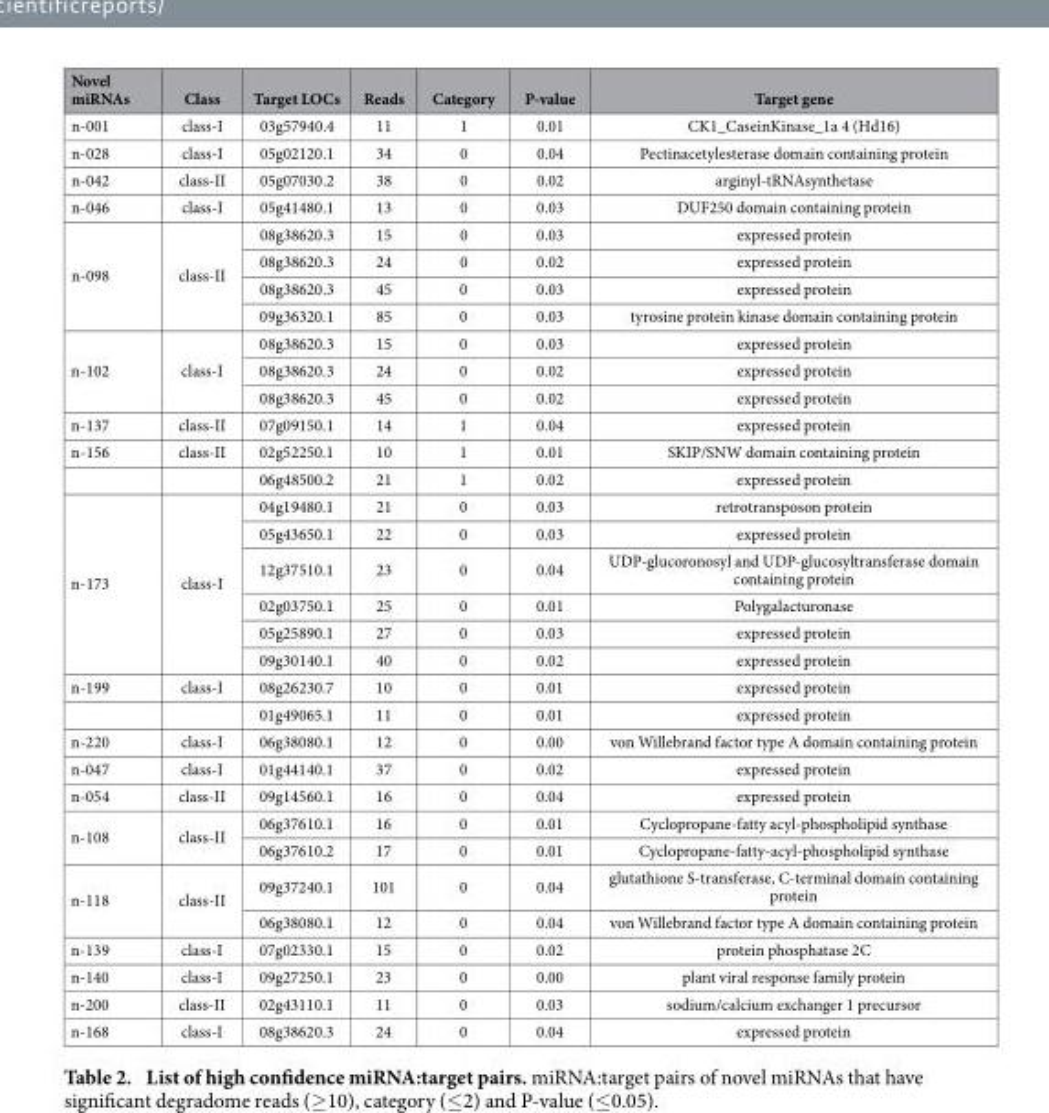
<table><thead><tr><td>Novel miRNAs</td><td>Class</td><td>Target LOCs</td><td>Reads</td><td>Category</td><td>P-value</td><td>Target gene</td></tr></thead><tbody><tr><td>n-001</td><td>class-I</td><td>03g57940.4</td><td>11</td><td>1</td><td>0.01</td><td>CK1_CaseinKinase_1a 4 (Hd16)</td></tr><tr><td>n-028</td><td>class-I</td><td>05g02120.1</td><td>34</td><td>0</td><td>0.04</td><td>Pectinacetylesterase domain containing protein</td></tr><tr><td>n-042</td><td>class-II</td><td>05g07030.2</td><td>38</td><td>0</td><td>0.02</td><td>arginyl-tRNAsynthetase</td></tr><tr><td>n-046</td><td>class-I</td><td>05g41480.1</td><td>13</td><td>0</td><td>0.03</td><td>DUF250 domain containing protein</td></tr><tr><td rowspan="4">n-098</td><td rowspan="4">class-II</td><td>08g38620.3</td><td>15</td><td>0</td><td>0.03</td><td>expressed protein</td></tr><tr><td>08g38620.3</td><td>24</td><td>0</td><td>0.02</td><td>expressed protein</td></tr><tr><td>08g38620.3</td><td>45</td><td>0</td><td>0.03</td><td>expressed protein</td></tr><tr><td>09g36320.1</td><td>85</td><td>0</td><td>0.03</td><td>tyrosine protein kinase domain containing protein</td></tr><tr><td rowspan="3">n-102</td><td rowspan="3">class-I</td><td>08g38620.3</td><td>15</td><td>0</td><td>0.03</td><td>expressed protein</td></tr><tr><td>08g38620.3</td><td>24</td><td>0</td><td>0.02</td><td>expressed protein</td></tr><tr><td>08g38620.3</td><td>45</td><td>0</td><td>0.02</td><td>expressed protein</td></tr><tr><td>n-137</td><td>class-II</td><td>07g09150.1</td><td>14</td><td>1</td><td>0.04</td><td>expressed protein</td></tr><tr><td rowspan="2">n-156</td><td>class-II</td><td>02g52250.1</td><td>10</td><td>1</td><td>0.01</td><td>SKIP/SNW domain containing protein</td></tr><tr><td></td><td>06g48500.2</td><td>21</td><td>1</td><td>0.02</td><td>expressed protein</td></tr><tr><td rowspan="6">n-173</td><td rowspan="6">class-I</td><td>04g19480.1</td><td>21</td><td>0</td><td>0.03</td><td>retrotransposon protein</td></tr><tr><td>05g43650.1</td><td>22</td><td>0</td><td>0.03</td><td>expressed protein</td></tr><tr><td>12g37510.1</td><td>23</td><td>0</td><td>0.04</td><td>UDP-glucoronosyl and UDP-glucosyltransferase domain containing protein</td></tr><tr><td>02g03750.1</td><td>25</td><td>0</td><td>0.01</td><td>Polygalacturonase</td></tr><tr><td>05g25890.1</td><td>27</td><td>0</td><td>0.03</td><td>expressed protein</td></tr><tr><td>09g30140.1</td><td>40</td><td>0</td><td>0.02</td><td>expressed protein</td></tr><tr><td rowspan="2">n-199</td><td>class-I</td><td>08g26230.7</td><td>10</td><td>0</td><td>0.01</td><td>expressed protein</td></tr><tr><td></td><td>01g49065.1</td><td>11</td><td>0</td><td>0.01</td><td>expressed protein</td></tr><tr><td>n-220</td><td>class-I</td><td>06g38080.1</td><td>12</td><td>0</td><td>0.00</td><td>von Willebrand factor type A domain containing protein</td></tr><tr><td>n-047</td><td>class-I</td><td>01g44140.1</td><td>37</td><td>0</td><td>0.02</td><td>expressed protein</td></tr><tr><td>n-054</td><td>class-II</td><td>09g14560.1</td><td>16</td><td>0</td><td>0.04</td><td>expressed protein</td></tr><tr><td rowspan="2">n-108</td><td rowspan="2">class-II</td><td>06g37610.1</td><td>16</td><td>0</td><td>0.01</td><td>Cyclopropane-fatty acyl-phospholipid synthase</td></tr><tr><td>06g37610.2</td><td>17</td><td>0</td><td>0.01</td><td>Cyclopropane-fatty-acyl-phospholipid synthase</td></tr><tr><td rowspan="2">n-118</td><td rowspan="2">class-II</td><td>09g37240.1</td><td>101</td><td>0</td><td>0.04</td><td>glutathione S-transferase, C-terminal domain containing protein</td></tr><tr><td>06g38080.1</td><td>12</td><td>0</td><td>0.04</td><td>von Willebrand factor type A domain containing protein</td></tr><tr><td>n-139</td><td>class-I</td><td>07g02330.1</td><td>15</td><td>0</td><td>0.02</td><td>protein phosphatase 2C</td></tr><tr><td>n-140</td><td>class-I</td><td>09g27250.1</td><td>23</td><td>0</td><td>0.00</td><td>plant viral response family protein</td></tr><tr><td>n-200</td><td>class-II</td><td>02g43110.1</td><td>11</td><td>0</td><td>0.03</td><td>sodium/calcium exchanger 1 precursor</td></tr><tr><td>n-168</td><td>class-I</td><td>08g38620.3</td><td>24</td><td>0</td><td>0.04</td><td>expressed protein</td></tr></tbody></table>